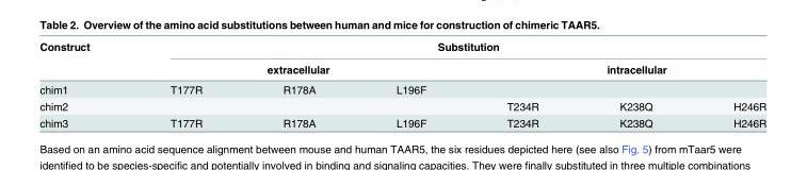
<table><thead><tr><td rowspan="3">Construct chim1</td><td colspan="6">Substitution</td></tr><tr><td colspan="3">extracellular</td><td colspan="3">intracellular</td></tr><tr><td>T177R</td><td>R178A</td><td>L196F</td><td></td><td></td><td></td></tr></thead><tbody><tr><td>chim2</td><td></td><td></td><td></td><td>T234R</td><td>K238Q</td><td>H246R</td></tr><tr><td>chim3</td><td>T177R</td><td>R178A</td><td>L196F</td><td>T234R</td><td>K238Q</td><td>H246R</td></tr></tbody></table>